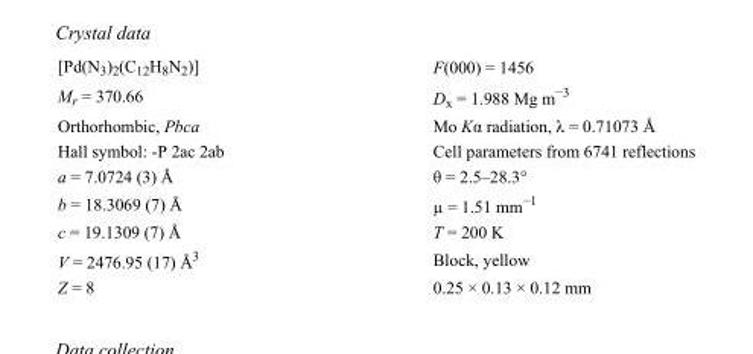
<table><tbody><tr><td>[Pd(N<sub>3</sub>)<sub>2</sub>(C<sub>12</sub>H<sub>8</sub>N<sub>2</sub>)]</td><td>F(000) = 1456</td></tr><tr><td>M<sub>r</sub> = 370.66</td><td>D<sub>x</sub> = 1.988 Mg m<sup>−3</sup></td></tr><tr><td>Orthorhombic, Pbca</td><td>Mo Kα radiation, λ = 0.71073 Å</td></tr><tr><td>Hall symbol: -P 2ac 2ab</td><td>Cell parameters from 6741 reflections</td></tr><tr><td>a = 7.0724 (3) Å</td><td>θ = 2.5–28.3°</td></tr><tr><td>b = 18.3069 (7) Å</td><td>µ = 1.51 mm<sup>−1</sup></td></tr><tr><td>c = 19.1309 (7) Å</td><td>T = 200 K</td></tr><tr><td>V = 2476.95 (17) Å<sup>3</sup></td><td>Block, yellow</td></tr><tr><td>Z = 8</td><td>0.25 × 0.13 × 0.12 mm</td></tr></tbody></table>